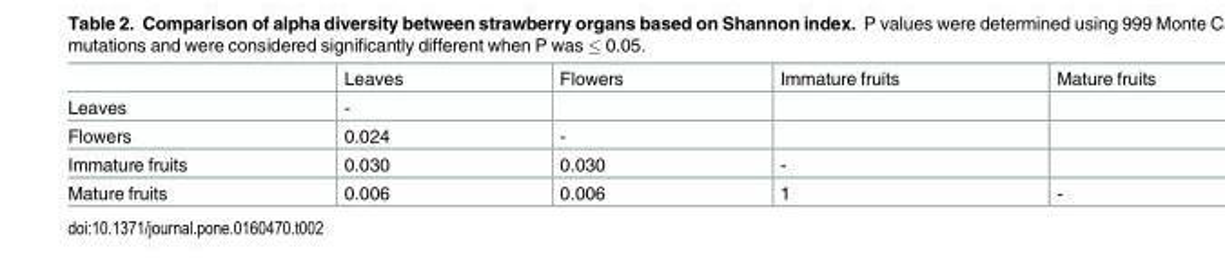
<table><thead><tr><td></td><td>Leaves</td><td>Flowers</td><td>Immature fruits</td><td>Mature fruits</td></tr></thead><tbody><tr><td>Leaves</td><td>-</td><td></td><td></td><td></td></tr><tr><td>Flowers</td><td>0.024</td><td>-</td><td></td><td></td></tr><tr><td>Immature fruits</td><td>0.030</td><td>0.030</td><td>-</td><td></td></tr><tr><td>Mature fruits</td><td>0.006</td><td>0.006</td><td>1</td><td>-</td></tr></tbody></table>